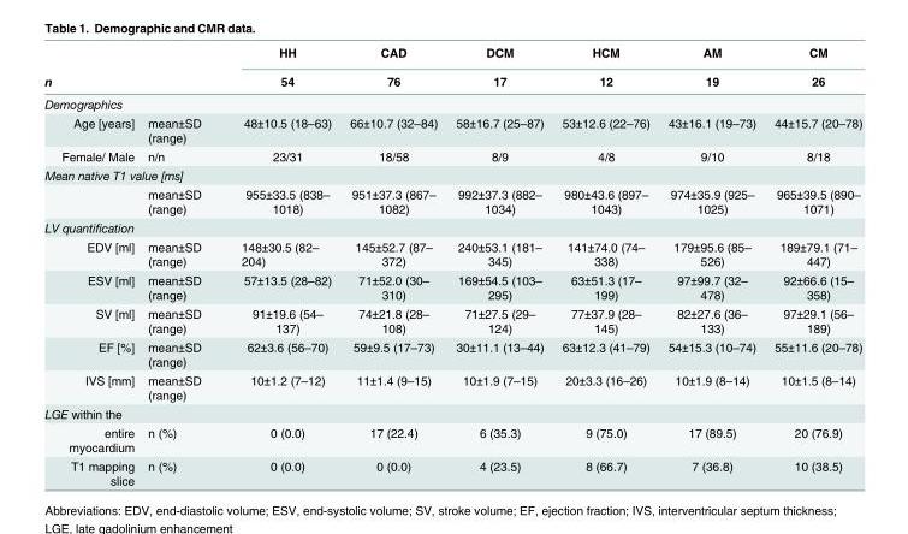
<table><thead><tr><td rowspan="2">n</td><td rowspan="2"></td><td rowspan="2">HH 54</td><td rowspan="2">CAD 76</td><td rowspan="2">DCM 17</td><td rowspan="2">HCM 12</td><td rowspan="2">AM 19</td><td rowspan="2">CM 26</td></tr><tr></tr></thead><tbody><tr><td colspan="8">Demographics</td></tr><tr><td>Age [years]</td><td>mean±SD (range)</td><td>48±10.5 (18–63)</td><td>66±10.7 (32–84)</td><td>58±16.7 (25–87)</td><td>53±12.6 (22–76)</td><td>43±16.1 (19–73)</td><td>44±15.7 (20–78)</td></tr><tr><td>Female/ Male</td><td>n/n</td><td>23/31</td><td>18/58</td><td>8/9</td><td>4/8</td><td>9/10</td><td>8/18</td></tr><tr><td colspan="8">Mean native T1 value [ms]</td></tr><tr><td></td><td>mean±SD (range)</td><td>955±33.5 (838– 1018)</td><td>951±37.3 (867– 1082)</td><td>992±37.3 (882– 1034)</td><td>980±43.6 (897– 1043)</td><td>974±35.9 (925– 1025)</td><td>965±39.5 (890– 1071)</td></tr><tr><td colspan="8">LV quantification</td></tr><tr><td>EDV [ml]</td><td>mean±SD (range)</td><td>148±30.5 (82– 204)</td><td>145±52.7 (87– 372)</td><td>240±53.1 (181– 345)</td><td>141±74.0 (74– 338)</td><td>179±95.6 (85– 526)</td><td>189±79.1 (71– 447)</td></tr><tr><td>ESV [ml]</td><td>mean±SD (range)</td><td>57±13.5 (28–82)</td><td>71±52.0 (30– 310)</td><td>169±54.5 (103– 295)</td><td>63±51.3 (17– 199)</td><td>97±99.7 (32– 478)</td><td>92±66.6 (15– 358)</td></tr><tr><td>SV [ml]</td><td>mean±SD (range)</td><td>91±19.6 (54– 137)</td><td>74±21.8 (28– 108)</td><td>71±27.5 (29– 124)</td><td>77±37.9 (28– 145)</td><td>82±27.6 (36– 133)</td><td>97±29.1 (56– 189)</td></tr><tr><td>EF [%]</td><td>mean±SD (range)</td><td>62±3.6 (56–70)</td><td>59±9.5 (17–73)</td><td>30±11.1 (13–44)</td><td>63±12.3 (41–79)</td><td>54±15.3 (10–74)</td><td>55±11.6 (20–78)</td></tr><tr><td>IVS [mm]</td><td>mean±SD (range)</td><td>10±1.2 (7–12)</td><td>11±1.4 (9–15)</td><td>10±1.9 (7–15)</td><td>20±3.3 (16–26)</td><td>10±1.9 (8–14)</td><td>10±1.5 (8–14)</td></tr><tr><td colspan="8">LGE within the</td></tr><tr><td>entire myocardium</td><td>n (%)</td><td>0 (0.0)</td><td>17 (22.4)</td><td>6 (35.3)</td><td>9 (75.0)</td><td>17 (89.5)</td><td>20 (76.9)</td></tr><tr><td>T1 mapping slice</td><td>n (%)</td><td>0 (0.0)</td><td>0 (0.0)</td><td>4 (23.5)</td><td>8 (66.7)</td><td>7 (36.8)</td><td>10 (38.5)</td></tr></tbody></table>